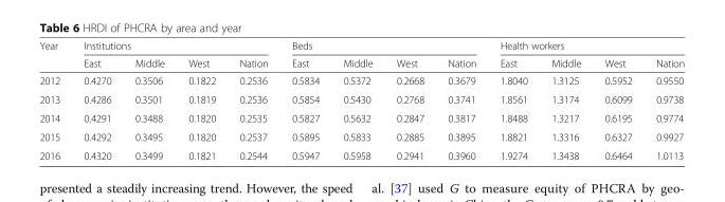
<table><thead><tr><td rowspan="2">Year</td><td colspan="4">Institutions</td><td colspan="4">Beds</td><td colspan="4">Health workers</td></tr><tr><td>East</td><td>Middle</td><td>West</td><td>Nation</td><td>East</td><td>Middle</td><td>West</td><td>Nation</td><td>East</td><td>Middle</td><td>West</td><td>Nation</td></tr></thead><tbody><tr><td>2012</td><td>0.4270</td><td>0.3506</td><td>0.1822</td><td>0.2536</td><td>0.5834</td><td>0.5372</td><td>0.2668</td><td>0.3679</td><td>1.8040</td><td>1.3125</td><td>0.5952</td><td>0.9550</td></tr><tr><td>2013</td><td>0.4286</td><td>0.3501</td><td>0.1819</td><td>0.2536</td><td>0.5854</td><td>0.5430</td><td>0.2768</td><td>0.3741</td><td>1.8561</td><td>1.3174</td><td>0.6099</td><td>0.9738</td></tr><tr><td>2014</td><td>0.4291</td><td>0.3488</td><td>0.1820</td><td>0.2535</td><td>0.5827</td><td>0.5632</td><td>0.2847</td><td>0.3817</td><td>1.8488</td><td>1.3217</td><td>0.6195</td><td>0.9774</td></tr><tr><td>2015</td><td>0.4292</td><td>0.3495</td><td>0.1820</td><td>0.2537</td><td>0.5895</td><td>0.5833</td><td>0.2885</td><td>0.3895</td><td>1.8821</td><td>1.3316</td><td>0.6327</td><td>0.9927</td></tr><tr><td>2016</td><td>0.4320</td><td>0.3499</td><td>0.1821</td><td>0.2544</td><td>0.5947</td><td>0.5958</td><td>0.2941</td><td>0.3960</td><td>1.9274</td><td>1.3438</td><td>0.6464</td><td>1.0113</td></tr></tbody></table>